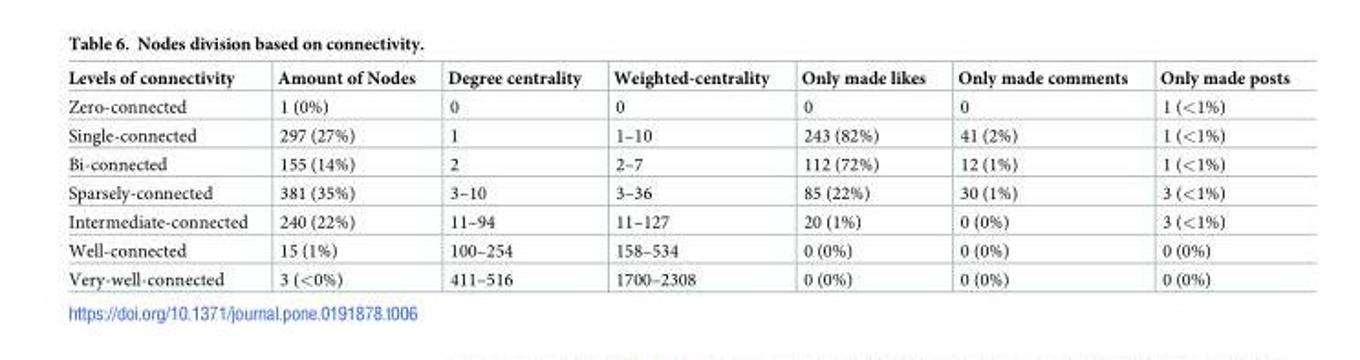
<table><thead><tr><td>Levels of connectivity</td><td>Amount of Nodes</td><td>Degree centrality</td><td>Weighted-centrality</td><td>Only made likes</td><td>Only made comments</td><td>Only made posts</td></tr></thead><tbody><tr><td>Zero-connected</td><td>1 (0%)</td><td>0</td><td>0</td><td>0</td><td>0</td><td>1 (&lt;1%)</td></tr><tr><td>Single-connected</td><td>297 (27%)</td><td>1</td><td>1–10</td><td>243 (82%)</td><td>41 (2%)</td><td>1 (&lt;1%)</td></tr><tr><td>Bi-connected</td><td>155 (14%)</td><td>2</td><td>2–7</td><td>112 (72%)</td><td>12 (1%)</td><td>1 (&lt;1%)</td></tr><tr><td>Sparsely-connected</td><td>381 (35%)</td><td>3–10</td><td>3–36</td><td>85 (22%)</td><td>30 (1%)</td><td>3 (&lt;1%)</td></tr><tr><td>Intermediate-connected</td><td>240 (22%)</td><td>11–94</td><td>11–127</td><td>20 (1%)</td><td>0 (0%)</td><td>3 (&lt;1%)</td></tr><tr><td>Well-connected</td><td>15 (1%)</td><td>100–254</td><td>158–534</td><td>0 (0%)</td><td>0 (0%)</td><td>0 (0%)</td></tr><tr><td>Very-well-connected</td><td>3 (&lt;0%)</td><td>411–516</td><td>1700–2308</td><td>0 (0%)</td><td>0 (0%)</td><td>0 (0%)</td></tr></tbody></table>